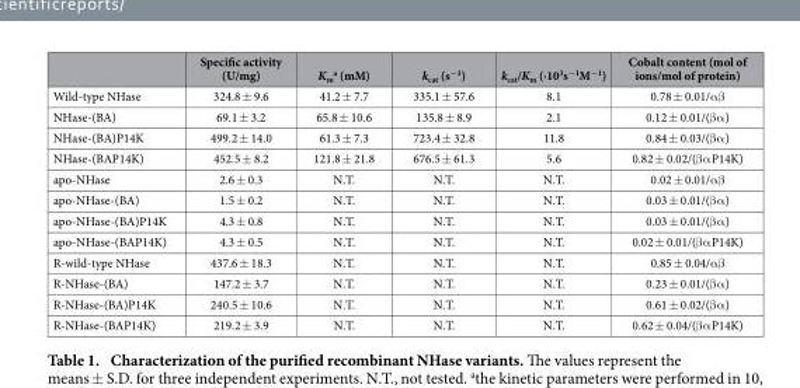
<table><thead><tr><td></td><td>Specific activity (U/mg)</td><td>K<sub>m</sub> <sup>a</sup> (mM)</td><td>k<sub>cat</sub> (s<sup>−1</sup>)</td><td>k<sub>cat</sub>/K<sub>m</sub> (∙10<sup>3</sup>s<sup>−1</sup>M<sup>−1</sup>)</td><td>Cobalt content (mol of ions/mol of protein)</td></tr></thead><tbody><tr><td>Wild-type NHase</td><td>324.8 ± 9.6</td><td>41.2 ± 7.7</td><td>335.1 ± 57.6</td><td>8.1</td><td>0.78 ± 0.01/α β</td></tr><tr><td>NHase-(BA)</td><td>69.1 ± 3.2</td><td>65.8 ± 10.6</td><td>135.8 ± 8.9</td><td>2.1</td><td>0.12 ± 0.01/(β α )</td></tr><tr><td>NHase-(BA)P14K</td><td>499.2 ± 14.0</td><td>61.3 ± 7.3</td><td>723.4 ± 32.8</td><td>11.8</td><td>0.84 ± 0.03/(β α )</td></tr><tr><td>NHase-(BAP14K)</td><td>452.5 ± 8.2</td><td>121.8 ± 21.8</td><td>676.5 ± 61.3</td><td>5.6</td><td>0.82 ± 0.02/(β α P14K)</td></tr><tr><td>apo-NHase</td><td>2.6 ± 0.3</td><td>N.T.</td><td>N.T.</td><td>N.T.</td><td>0.02 ± 0.01/α β</td></tr><tr><td>apo-NHase-(BA)</td><td>1.5 ± 0.2</td><td>N.T.</td><td>N.T.</td><td>N.T.</td><td>0.03 ± 0.01/(β α )</td></tr><tr><td>apo-NHase-(BA)P14K</td><td>4.3 ± 0.8</td><td>N.T.</td><td>N.T.</td><td>N.T.</td><td>0.03 ± 0.01/(β α )</td></tr><tr><td>apo-NHase-(BAP14K)</td><td>4.3 ± 0.5</td><td>N.T.</td><td>N.T.</td><td>N.T.</td><td>0.02 ± 0.01/(β α P14K)</td></tr><tr><td>R-wild-type NHase</td><td>437.6 ± 18.3</td><td>N.T.</td><td>N.T.</td><td>N.T.</td><td>0.85 ± 0.04/α β</td></tr><tr><td>R-NHase-(BA)</td><td>147.2 ± 3.7</td><td>N.T.</td><td>N.T.</td><td>N.T.</td><td>0.23 ± 0.01/(β α )</td></tr><tr><td>R-NHase-(BA)P14K</td><td>240.5 ± 10.6</td><td>N.T.</td><td>N.T.</td><td>N.T.</td><td>0.61 ± 0.02/(β α )</td></tr><tr><td>R-NHase-(BAP14K)</td><td>219.2 ± 3.9</td><td>N.T.</td><td>N.T.</td><td>N.T.</td><td>0.62 ± 0.04/(β α P14K)</td></tr></tbody></table>